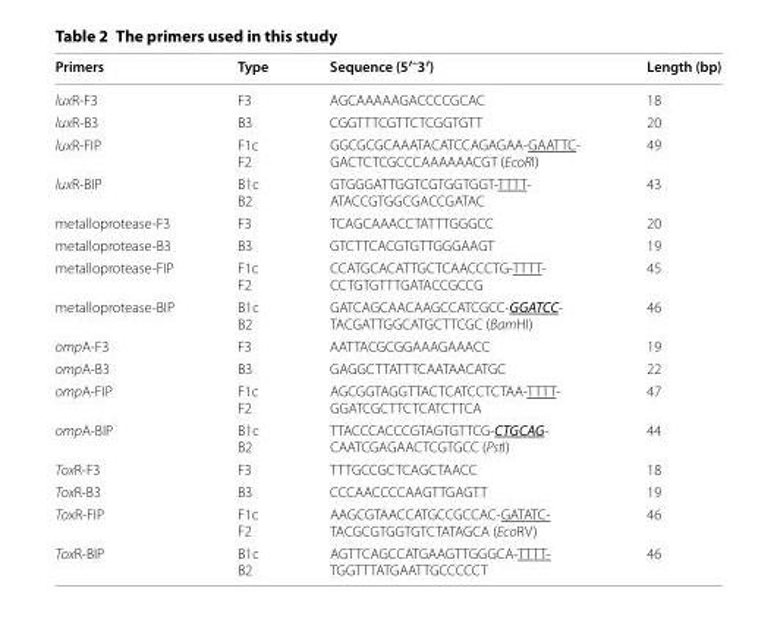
<table><thead><tr><td>Primers</td><td>Type</td><td>Sequence (5′<sup>–</sup>3′)</td><td>Length (bp)</td></tr></thead><tbody><tr><td>luxR‑F3</td><td>F3</td><td>AGCAAAAAGACCCCGCAC</td><td>18</td></tr><tr><td>luxR‑B3</td><td>B3</td><td>CGGTTTCGTTCTCGGTGTT</td><td>20</td></tr><tr><td>luxR‑FIP</td><td>F1c F2</td><td>GGCGCGCAAATACATCCAGAGAA‑GAATTC‑ GACTCTCGCCCAAAAAACGT (EcoRI)</td><td>49</td></tr><tr><td>luxR‑BIP</td><td>B1c B2</td><td>GTGGGATTGGTCGTGGTGGT‑TTTT‑ ATACCGTGGCGACCGATAC</td><td>43</td></tr><tr><td>metalloprotease‑F3</td><td>F3</td><td>TCAGCAAACCTATTTGGGCC</td><td>20</td></tr><tr><td>metalloprotease‑B3</td><td>B3</td><td>GTCTTCACGTGTTGGGAAGT</td><td>19</td></tr><tr><td>metalloprotease‑FIP</td><td>F1c F2</td><td>CCATGCACATTGCTCAACCCTG‑TTTT‑ CCTGTGTTTGATACCGCCG</td><td>45</td></tr><tr><td>metalloprotease‑BIP</td><td>B1c B2</td><td>GATCAGCAACAAGCCATCGCC‑GGATCC‑ TACGATTGGCATGCTTCGC (BamHI)</td><td>46</td></tr><tr><td>ompA‑F3</td><td>F3</td><td>AATTACGCGGAAAGAAACC</td><td>19</td></tr><tr><td>ompA‑B3</td><td>B3</td><td>GAGGCTTATTTCAATAACATGC</td><td>22</td></tr><tr><td>ompA‑FIP</td><td>F1c F2</td><td>AGCGGTAGGTTACTCATCCTCTAA‑TTTT‑ GGATCGCTTCTCATCTTCA</td><td>47</td></tr><tr><td>ompA‑BIP</td><td>B1c B2</td><td>TTACCCACCCGTAGTGTTCG‑CTGCAG‑ CAATCGAGAACTCGTGCC (PstI)</td><td>44</td></tr><tr><td>ToxR‑F3</td><td>F3</td><td>TTTGCCGCTCAGCTAACC</td><td>18</td></tr><tr><td>ToxR‑B3</td><td>B3</td><td>CCCAACCCCAAGTTGAGTT</td><td>19</td></tr><tr><td>ToxR‑FIP</td><td>F1c F2</td><td>AAGCGTAACCATGCCGCCAC‑GATATC‑ TACGCGTGGTGTCTATAGCA (EcoRV)</td><td>46</td></tr><tr><td>ToxR‑BIP</td><td>B1c B2</td><td>AGTTCAGCCATGAAGTTGGGCA‑TTTT‑ TGGTTTATGAATTGCCCCCT</td><td>46</td></tr></tbody></table>